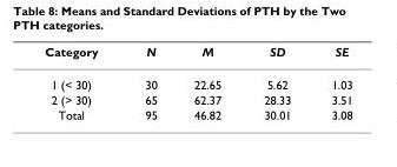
<table><thead><tr><td>Category</td><td>N</td><td>M</td><td>SD</td><td>SE</td></tr></thead><tbody><tr><td>1 (&lt; 30)</td><td>30</td><td>22.65</td><td>5.62</td><td>1.03</td></tr><tr><td>2 (&gt; 30)</td><td>65</td><td>62.37</td><td>28.33</td><td>3.51</td></tr><tr><td>Total</td><td>95</td><td>46.82</td><td>30.01</td><td>3.08</td></tr></tbody></table>